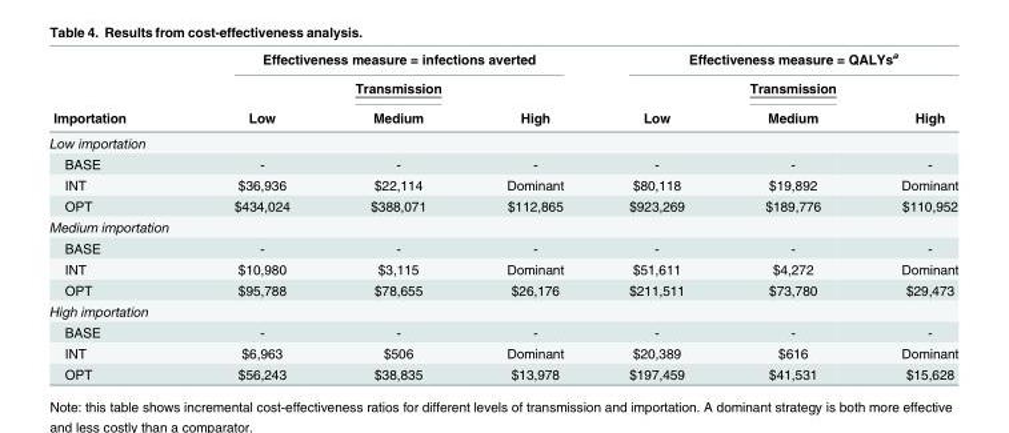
<table><thead><tr><td rowspan="3">Importation</td><td colspan="3">Effectiveness measure = infections averted</td><td colspan="3">Effectiveness measure = QALYs<sup>a</sup></td></tr><tr><td rowspan="2">Low</td><td rowspan="2">Transmission Medium</td><td rowspan="2">High</td><td rowspan="2">Low</td><td rowspan="2">Transmission Medium</td><td rowspan="2">High</td></tr><tr></tr></thead><tbody><tr><td colspan="7">Low importation</td></tr><tr><td>BASE</td><td>-</td><td>-</td><td>-</td><td>-</td><td>-</td><td>-</td></tr><tr><td>INT</td><td>$36,936</td><td>$22,114</td><td>Dominant</td><td>$80,118</td><td>$19,892</td><td>Dominant</td></tr><tr><td>OPT</td><td>$434,024</td><td>$388,071</td><td>$112,865</td><td>$923,269</td><td>$189,776</td><td>$110,952</td></tr><tr><td colspan="7">Medium importation</td></tr><tr><td>BASE</td><td>-</td><td>-</td><td>-</td><td>-</td><td>-</td><td>-</td></tr><tr><td>INT</td><td>$10,980</td><td>$3,115</td><td>Dominant</td><td>$51,611</td><td>$4,272</td><td>Dominant</td></tr><tr><td>OPT</td><td>$95,788</td><td>$78,655</td><td>$26,176</td><td>$211,511</td><td>$73,780</td><td>$29,473</td></tr><tr><td colspan="7">High importation</td></tr><tr><td>BASE</td><td>-</td><td>-</td><td>-</td><td>-</td><td>-</td><td>-</td></tr><tr><td>INT</td><td>$6,963</td><td>$506</td><td>Dominant</td><td>$20,389</td><td>$616</td><td>Dominant</td></tr><tr><td>OPT</td><td>$56,243</td><td>$38,835</td><td>$13,978</td><td>$197,459</td><td>$41,531</td><td>$15,628</td></tr></tbody></table>